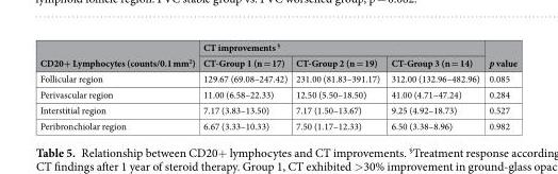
<table><thead><tr><td rowspan="2">CD20+ Lymphocytes (counts/0.1 mm<sup>2</sup>)</td><td colspan="3">CT improvements <sup>§</sup></td><td rowspan="2">p value</td></tr><tr><td>CT-Group 1 (n = 17)</td><td>CT-Group 2 (n = 19)</td><td>CT-Group 3 (n = 14)</td></tr></thead><tbody><tr><td>Follicular region</td><td>129.67 (69.08–247.42)</td><td>231.00 (81.83–391.17)</td><td>312.00 (132.96–482.96)</td><td>0.085</td></tr><tr><td>Perivascular region</td><td>11.00 (6.58–22.33)</td><td>12.50 (5.50–18.50)</td><td>41.00 (4.71–47.24)</td><td>0.284</td></tr><tr><td>Interstitial region</td><td>7.17 (3.83–13.50)</td><td>7.17 (1.50–13.67)</td><td>9.25 (4.92–18.73)</td><td>0.527</td></tr><tr><td>Peribronchiolar region</td><td>6.67 (3.33–10.33)</td><td>7.50 (1.17–12.33)</td><td>6.50 (3.38–8.96)</td><td>0.982</td></tr></tbody></table>